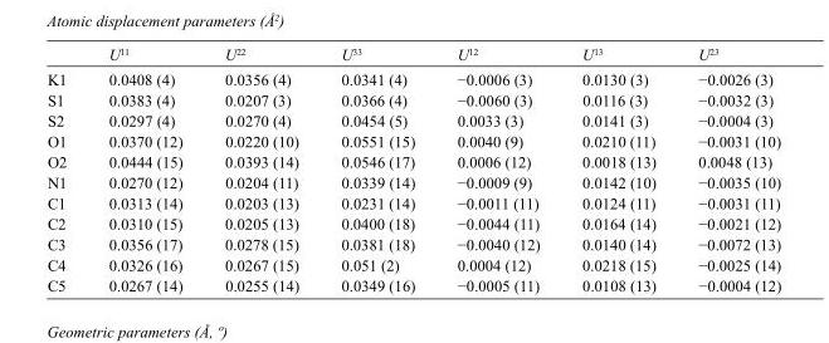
<table><thead><tr><td></td><td>U<sup>11</sup></td><td>U<sup>22</sup></td><td>U<sup>33</sup></td><td>U<sup>12</sup></td><td>U<sup>13</sup></td><td>U<sup>23</sup></td></tr></thead><tbody><tr><td>K1</td><td>0.0408 (4)</td><td>0.0356 (4)</td><td>0.0341 (4)</td><td>−0.0006 (3)</td><td>0.0130 (3)</td><td>−0.0026 (3)</td></tr><tr><td>S1</td><td>0.0383 (4)</td><td>0.0207 (3)</td><td>0.0366 (4)</td><td>−0.0060 (3)</td><td>0.0116 (3)</td><td>−0.0032 (3)</td></tr><tr><td>S2</td><td>0.0297 (4)</td><td>0.0270 (4)</td><td>0.0454 (5)</td><td>0.0033 (3)</td><td>0.0141 (3)</td><td>−0.0004 (3)</td></tr><tr><td>O1</td><td>0.0370 (12)</td><td>0.0220 (10)</td><td>0.0551 (15)</td><td>0.0040 (9)</td><td>0.0210 (11)</td><td>−0.0031 (10)</td></tr><tr><td>O2</td><td>0.0444 (15)</td><td>0.0393 (14)</td><td>0.0546 (17)</td><td>0.0006 (12)</td><td>0.0018 (13)</td><td>0.0048 (13)</td></tr><tr><td>N1</td><td>0.0270 (12)</td><td>0.0204 (11)</td><td>0.0339 (14)</td><td>−0.0009 (9)</td><td>0.0142 (10)</td><td>−0.0035 (10)</td></tr><tr><td>C1</td><td>0.0313 (14)</td><td>0.0203 (13)</td><td>0.0231 (14)</td><td>−0.0011 (11)</td><td>0.0124 (11)</td><td>−0.0031 (11)</td></tr><tr><td>C2</td><td>0.0310 (15)</td><td>0.0205 (13)</td><td>0.0400 (18)</td><td>−0.0044 (11)</td><td>0.0164 (14)</td><td>−0.0021 (12)</td></tr><tr><td>C3</td><td>0.0356 (17)</td><td>0.0278 (15)</td><td>0.0381 (18)</td><td>−0.0040 (12)</td><td>0.0140 (14)</td><td>−0.0072 (13)</td></tr><tr><td>C4</td><td>0.0326 (16)</td><td>0.0267 (15)</td><td>0.051 (2)</td><td>0.0004 (12)</td><td>0.0218 (15)</td><td>−0.0025 (14)</td></tr><tr><td>C5</td><td>0.0267 (14)</td><td>0.0255 (14)</td><td>0.0349 (16)</td><td>−0.0005 (11)</td><td>0.0108 (13)</td><td>−0.0004 (12)</td></tr></tbody></table>